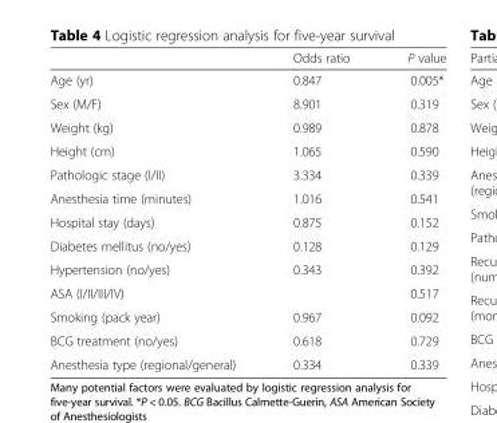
<table><thead><tr><td></td><td>Odds ratio</td><td>P value</td></tr></thead><tbody><tr><td>Age (yr)</td><td>0.847</td><td>0.005*</td></tr><tr><td>Sex (M/F)</td><td>8.901</td><td>0.319</td></tr><tr><td>Weight (kg)</td><td>0.989</td><td>0.878</td></tr><tr><td>Height (cm)</td><td>1.065</td><td>0.590</td></tr><tr><td>Pathologic stage (I/II)</td><td>3.334</td><td>0.339</td></tr><tr><td>Anesthesia time (minutes)</td><td>1.016</td><td>0.541</td></tr><tr><td>Hospital stay (days)</td><td>0.875</td><td>0.152</td></tr><tr><td>Diabetes mellitus (no/yes)</td><td>0.128</td><td>0.129</td></tr><tr><td>Hypertension (no/yes)</td><td>0.343</td><td>0.392</td></tr><tr><td>ASA (I/II/III/IV)</td><td></td><td>0.517</td></tr><tr><td>Smoking (pack year)</td><td>0.967</td><td>0.092</td></tr><tr><td>BCG treatment (no/yes)</td><td>0.618</td><td>0.729</td></tr><tr><td>Anesthesia type (regional/general)</td><td>0.334</td><td>0.339</td></tr></tbody></table>